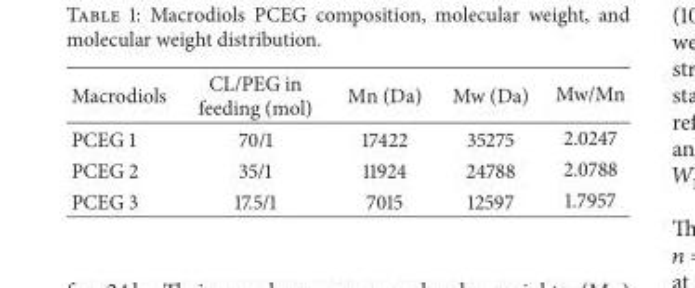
<table><thead><tr><td>Macrodiols</td><td>CL/PEG in feeding (mol)</td><td>Mn (Da)</td><td>Mw (Da)</td><td>Mw/Mn</td></tr></thead><tbody><tr><td>PCEG 1</td><td>70/1</td><td>17422</td><td>35275</td><td>2.0247</td></tr><tr><td>PCEG 2</td><td>35/1</td><td>11924</td><td>24788</td><td>2.0788</td></tr><tr><td>PCEG 3</td><td>17.5/1</td><td>7015</td><td>12597</td><td>1.7957</td></tr></tbody></table>